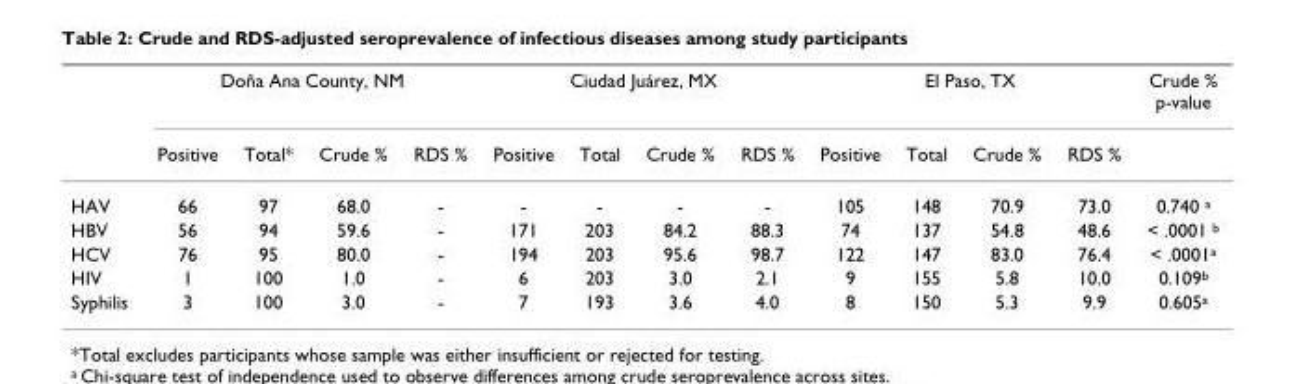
<table><thead><tr><td rowspan="2"></td><td colspan="4">Doña Ana County, NM</td><td colspan="4">Ciudad Juárez, MX</td><td colspan="4">El Paso, TX</td><td rowspan="2">Crude % p-value</td></tr><tr><td>Positive</td><td>Total*</td><td>Crude %</td><td>RDS %</td><td>Positive</td><td>Total</td><td>Crude %</td><td>RDS %</td><td>Positive</td><td>Total</td><td>Crude %</td><td>RDS %</td></tr></thead><tbody><tr><td>HAV</td><td>66</td><td>97</td><td>68.0</td><td>-</td><td>-</td><td>-</td><td>-</td><td>-</td><td>105</td><td>148</td><td>70.9</td><td>73.0</td><td>0.740 <sup>a</sup></td></tr><tr><td>HBV</td><td>56</td><td>94</td><td>59.6</td><td>-</td><td>171</td><td>203</td><td>84.2</td><td>88.3</td><td>74</td><td>137</td><td>54.8</td><td>48.6</td><td>&lt; .0001 <sup>b</sup></td></tr><tr><td>HCV</td><td>76</td><td>95</td><td>80.0</td><td>-</td><td>194</td><td>203</td><td>95.6</td><td>98.7</td><td>122</td><td>147</td><td>83.0</td><td>76.4</td><td>&lt; .0001<sup>a</sup></td></tr><tr><td>HIV</td><td>1</td><td>100</td><td>1.0</td><td>-</td><td>6</td><td>203</td><td>3.0</td><td>2.1</td><td>9</td><td>155</td><td>5.8</td><td>10.0</td><td>0.109<sup>b</sup></td></tr><tr><td>Syphilis</td><td>3</td><td>100</td><td>3.0</td><td>-</td><td>7</td><td>193</td><td>3.6</td><td>4.0</td><td>8</td><td>150</td><td>5.3</td><td>9.9</td><td>0.605<sup>a</sup></td></tr></tbody></table>